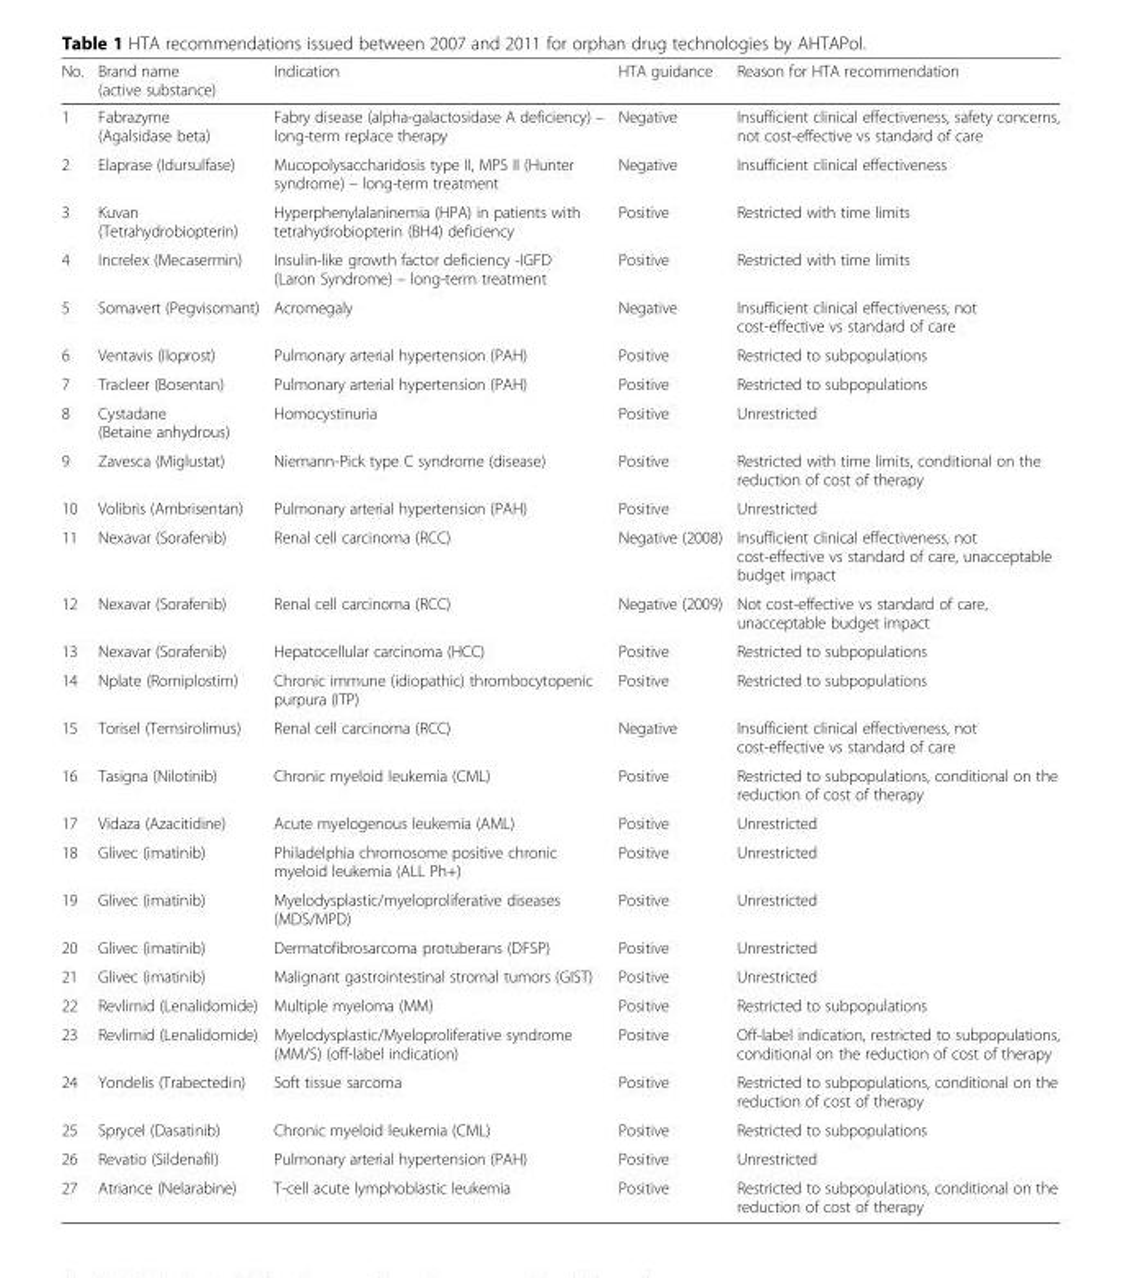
<table><thead><tr><td>No.</td><td>Brand name (active substance)</td><td>Indication</td><td>HTA guidance</td><td>Reason for HTA recommendation</td></tr></thead><tbody><tr><td>1</td><td>Fabrazyme (Agalsidase beta)</td><td>Fabry disease (alpha-galactosidase A deficiency) – long-term replace therapy</td><td>Negative</td><td>Insufficient clinical effectiveness, safety concerns, not cost-effective vs standard of care</td></tr><tr><td>2</td><td>Elaprase (Idursulfase)</td><td>Mucopolysaccharidosis type II, MPS II (Hunter syndrome) – long-term treatment</td><td>Negative</td><td>Insufficient clinical effectiveness</td></tr><tr><td>3</td><td>Kuvan (Tetrahydrobiopterin)</td><td>Hyperphenylalaninemia (HPA) in patients with tetrahydrobiopterin (BH4) deficiency</td><td>Positive</td><td>Restricted with time limits</td></tr><tr><td>4</td><td>Increlex (Mecasermin)</td><td>Insulin-like growth factor deficiency -IGFD (Laron Syndrome) – long-term treatment</td><td>Positive</td><td>Restricted with time limits</td></tr><tr><td>5</td><td>Somavert (Pegvisomant)</td><td>Acromegaly</td><td>Negative</td><td>Insufficient clinical effectiveness, not cost-effective vs standard of care</td></tr><tr><td>6</td><td>Ventavis (Iloprost)</td><td>Pulmonary arterial hypertension (PAH)</td><td>Positive</td><td>Restricted to subpopulations</td></tr><tr><td>7</td><td>Tracleer (Bosentan)</td><td>Pulmonary arterial hypertension (PAH)</td><td>Positive</td><td>Restricted to subpopulations</td></tr><tr><td>8</td><td>Cystadane (Betaine anhydrous)</td><td>Homocystinuria</td><td>Positive</td><td>Unrestricted</td></tr><tr><td>9</td><td>Zavesca (Miglustat)</td><td>Niemann-Pick type C syndrome (disease)</td><td>Positive</td><td>Restricted with time limits, conditional on the reduction of cost of therapy</td></tr><tr><td>10</td><td>Volibris (Ambrisentan)</td><td>Pulmonary arterial hypertension (PAH)</td><td>Positive</td><td>Unrestricted</td></tr><tr><td>11</td><td>Nexavar (Sorafenib)</td><td>Renal cell carcinoma (RCC)</td><td>Negative (2008)</td><td>Insufficient clinical effectiveness, not cost-effective vs standard of care, unacceptable budget impact</td></tr><tr><td>12</td><td>Nexavar (Sorafenib)</td><td>Renal cell carcinoma (RCC)</td><td>Negative (2009)</td><td>Not cost-effective vs standard of care, unacceptable budget impact</td></tr><tr><td>13</td><td>Nexavar (Sorafenib)</td><td>Hepatocellular carcinoma (HCC)</td><td>Positive</td><td>Restricted to subpopulations</td></tr><tr><td>14</td><td>Nplate (Romiplostim)</td><td>Chronic immune (idiopathic) thrombocytopenic purpura (ITP)</td><td>Positive</td><td>Restricted to subpopulations</td></tr><tr><td>15</td><td>Torisel (Temsirolimus)</td><td>Renal cell carcinoma (RCC)</td><td>Negative</td><td>Insufficient clinical effectiveness, not cost-effective vs standard of care</td></tr><tr><td>16</td><td>Tasigna (Nilotinib)</td><td>Chronic myeloid leukemia (CML)</td><td>Positive</td><td>Restricted to subpopulations, conditional on the reduction of cost of therapy</td></tr><tr><td>17</td><td>Vidaza (Azacitidine)</td><td>Acute myelogenous leukemia (AML)</td><td>Positive</td><td>Unrestricted</td></tr><tr><td>18</td><td>Glivec (imatinib)</td><td>Philadelphia chromosome positive chronic myeloid leukemia (ALL Ph+)</td><td>Positive</td><td>Unrestricted</td></tr><tr><td>19</td><td>Glivec (imatinib)</td><td>Myelodysplastic/myeloproliferative diseases (MDS/MPD)</td><td>Positive</td><td>Unrestricted</td></tr><tr><td>20</td><td>Glivec (imatinib)</td><td>Dermatofibrosarcoma protuberans (DFSP)</td><td>Positive</td><td>Unrestricted</td></tr><tr><td>21</td><td>Glivec (imatinib)</td><td>Malignant gastrointestinal stromal tumors (GIST)</td><td>Positive</td><td>Unrestricted</td></tr><tr><td>22</td><td>Revlimid (Lenalidomide)</td><td>Multiple myeloma (MM)</td><td>Positive</td><td>Restricted to subpopulations</td></tr><tr><td>23</td><td>Revlimid (Lenalidomide)</td><td>Myelodysplastic/Myeloproliferative syndrome (MM/S) (off-label indication)</td><td>Positive</td><td>Off-label indication, restricted to subpopulations, conditional on the reduction of cost of therapy</td></tr><tr><td>24</td><td>Yondelis (Trabectedin)</td><td>Soft tissue sarcoma</td><td>Positive</td><td>Restricted to subpopulations, conditional on the reduction of cost of therapy</td></tr><tr><td>25</td><td>Sprycel (Dasatinib)</td><td>Chronic myeloid leukemia (CML)</td><td>Positive</td><td>Restricted to subpopulations</td></tr><tr><td>26</td><td>Revatio (Sildenafil)</td><td>Pulmonary arterial hypertension (PAH)</td><td>Positive</td><td>Unrestricted</td></tr><tr><td>27</td><td>Atriance (Nelarabine)</td><td>T-cell acute lymphoblastic leukemia</td><td>Positive</td><td>Restricted to subpopulations, conditional on the reduction of cost of therapy</td></tr></tbody></table>